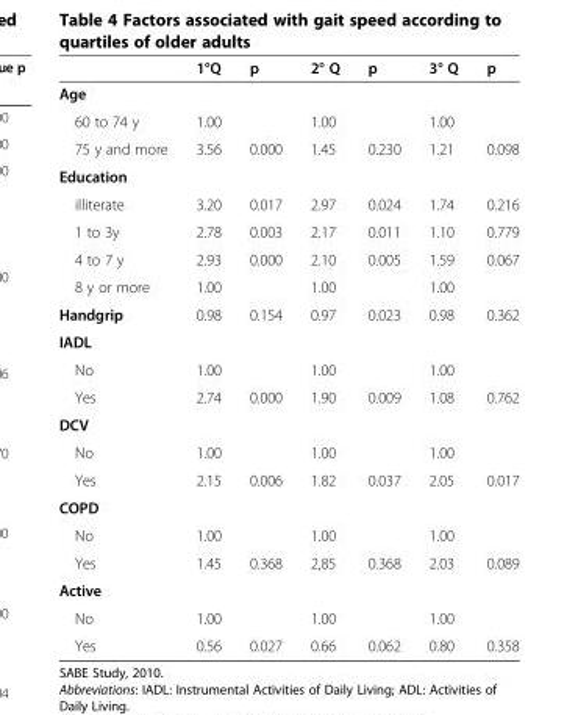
<table><thead><tr><td></td><td>1°Q</td><td>p</td><td>2° Q</td><td>p</td><td>3° Q</td><td>p</td></tr></thead><tbody><tr><td colspan="7">Age</td></tr><tr><td>60 to 74 y</td><td>1.00</td><td></td><td>1.00</td><td></td><td>1.00</td><td></td></tr><tr><td>75 y and more</td><td>3.56</td><td>0.000</td><td>1.45</td><td>0.230</td><td>1.21</td><td>0.098</td></tr><tr><td colspan="7">Education</td></tr><tr><td>illiterate</td><td>3.20</td><td>0.017</td><td>2.97</td><td>0.024</td><td>1.74</td><td>0.216</td></tr><tr><td>1 to 3y</td><td>2.78</td><td>0.003</td><td>2.17</td><td>0.011</td><td>1.10</td><td>0.779</td></tr><tr><td>4 to 7 y</td><td>2.93</td><td>0.000</td><td>2.10</td><td>0.005</td><td>1.59</td><td>0.067</td></tr><tr><td>8 y or more</td><td>1.00</td><td></td><td>1.00</td><td></td><td>1.00</td><td></td></tr><tr><td>Handgrip</td><td>0.98</td><td>0.154</td><td>0.97</td><td>0.023</td><td>0.98</td><td>0.362</td></tr><tr><td colspan="7">IADL</td></tr><tr><td>No</td><td>1.00</td><td></td><td>1.00</td><td></td><td>1.00</td><td></td></tr><tr><td>Yes</td><td>2.74</td><td>0.000</td><td>1.90</td><td>0.009</td><td>1.08</td><td>0.762</td></tr><tr><td colspan="7">DCV</td></tr><tr><td>No</td><td>1.00</td><td></td><td>1.00</td><td></td><td>1.00</td><td></td></tr><tr><td>Yes</td><td>2.15</td><td>0.006</td><td>1.82</td><td>0.037</td><td>2.05</td><td>0.017</td></tr><tr><td colspan="7">COPD</td></tr><tr><td>No</td><td>1.00</td><td></td><td>1.00</td><td></td><td>1.00</td><td></td></tr><tr><td>Yes</td><td>1.45</td><td>0.368</td><td>2,85</td><td>0.368</td><td>2.03</td><td>0.089</td></tr><tr><td colspan="7">Active</td></tr><tr><td>No</td><td>1.00</td><td></td><td>1.00</td><td></td><td>1.00</td><td></td></tr><tr><td>Yes</td><td>0.56</td><td>0.027</td><td>0.66</td><td>0.062</td><td>0.80</td><td>0.358</td></tr></tbody></table>